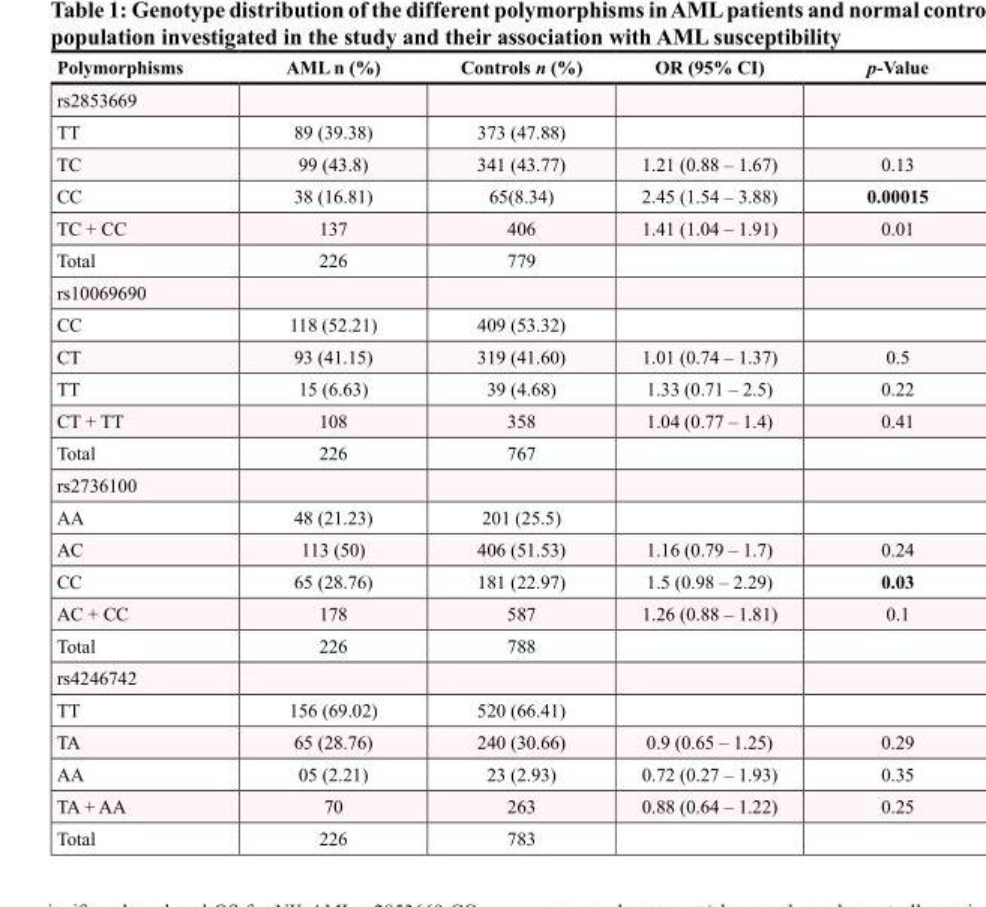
<table><thead><tr><td>Polymorphisms</td><td>AML n (%)</td><td>Controls n (%)</td><td>OR (95% CI)</td><td>p-Value</td></tr></thead><tbody><tr><td colspan="5">rs2853669</td></tr><tr><td>TT</td><td>89 (39.38)</td><td>373 (47.88)</td><td></td><td></td></tr><tr><td>TC</td><td>99 (43.8)</td><td>341 (43.77)</td><td>1.21 (0.88 – 1.67)</td><td>0.13</td></tr><tr><td>CC</td><td>38 (16.81)</td><td>65(8.34)</td><td>2.45 (1.54 – 3.88)</td><td>0.00015</td></tr><tr><td>TC + CC</td><td>137</td><td>406</td><td>1.41 (1.04 – 1.91)</td><td>0.01</td></tr><tr><td>Total</td><td>226</td><td>779</td><td></td><td></td></tr><tr><td colspan="5">rs10069690</td></tr><tr><td>CC</td><td>118 (52.21)</td><td>409 (53.32)</td><td></td><td></td></tr><tr><td>CT</td><td>93 (41.15)</td><td>319 (41.60)</td><td>1.01 (0.74 – 1.37)</td><td>0.5</td></tr><tr><td>TT</td><td>15 (6.63)</td><td>39 (4.68)</td><td>1.33 (0.71 – 2.5)</td><td>0.22</td></tr><tr><td>CT + TT</td><td>108</td><td>358</td><td>1.04 (0.77 – 1.4)</td><td>0.41</td></tr><tr><td>Total</td><td>226</td><td>767</td><td></td><td></td></tr><tr><td colspan="5">rs2736100</td></tr><tr><td>AA</td><td>48 (21.23)</td><td>201 (25.5)</td><td></td><td></td></tr><tr><td>AC</td><td>113 (50)</td><td>406 (51.53)</td><td>1.16 (0.79 – 1.7)</td><td>0.24</td></tr><tr><td>CC</td><td>65 (28.76)</td><td>181 (22.97)</td><td>1.5 (0.98 – 2.29)</td><td>0.03</td></tr><tr><td>AC + CC</td><td>178</td><td>587</td><td>1.26 (0.88 – 1.81)</td><td>0.1</td></tr><tr><td>Total</td><td>226</td><td>788</td><td></td><td></td></tr><tr><td colspan="5">rs4246742</td></tr><tr><td>TT</td><td>156 (69.02)</td><td>520 (66.41)</td><td></td><td></td></tr><tr><td>TA</td><td>65 (28.76)</td><td>240 (30.66)</td><td>0.9 (0.65 – 1.25)</td><td>0.29</td></tr><tr><td>AA</td><td>05 (2.21)</td><td>23 (2.93)</td><td>0.72 (0.27 – 1.93)</td><td>0.35</td></tr><tr><td>TA + AA</td><td>70</td><td>263</td><td>0.88 (0.64 – 1.22)</td><td>0.25</td></tr><tr><td>Total</td><td>226</td><td>783</td><td></td><td></td></tr></tbody></table>